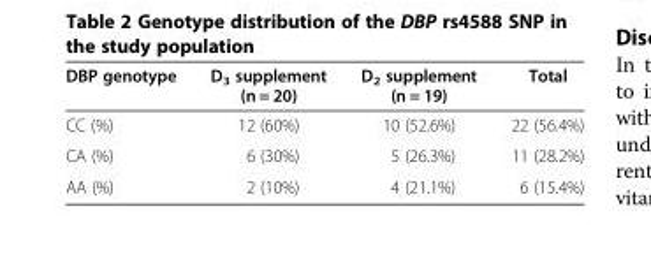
<table><thead><tr><td>DBP genotype</td><td>D<sub>3</sub> supplement (n = 20)</td><td>D<sub>2</sub> supplement (n = 19)</td><td>Total</td></tr></thead><tbody><tr><td>CC (%)</td><td>12 (60%)</td><td>10 (52.6%)</td><td>22 (56.4%)</td></tr><tr><td>CA (%)</td><td>6 (30%)</td><td>5 (26.3%)</td><td>11 (28.2%)</td></tr><tr><td>AA (%)</td><td>2 (10%)</td><td>4 (21.1%)</td><td>6 (15.4%)</td></tr></tbody></table>